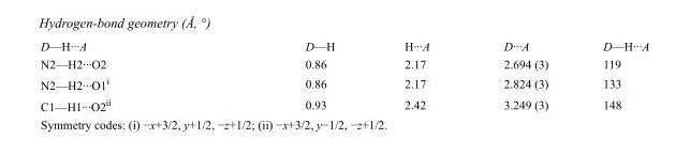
<table><tbody><tr><td>D—H···A</td><td>D—H</td><td>H···A</td><td>D···A</td><td>D—H···A</td></tr><tr><td>N2—H2···O2</td><td>0.86</td><td>2.17</td><td>2.694 (3)</td><td>119</td></tr><tr><td>N2—H2···O1<sup>i</sup></td><td>0.86</td><td>2.17</td><td>2.824 (3)</td><td>133</td></tr><tr><td>C1—H1···O2<sup>ii</sup></td><td>0.93</td><td>2.42</td><td>3.249 (3)</td><td>148</td></tr></tbody></table>